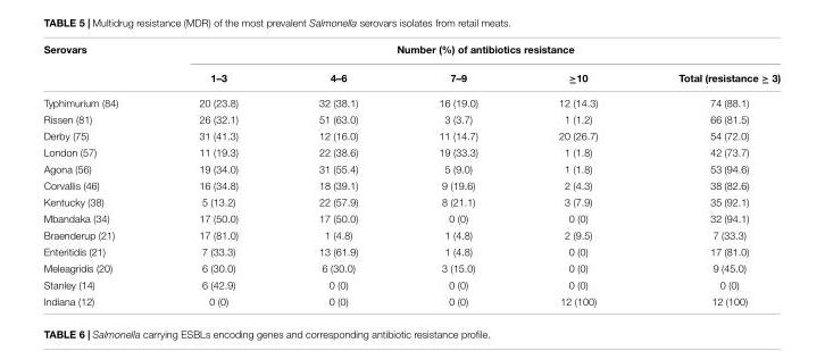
<table><thead><tr><td rowspan="2">Serovars</td><td colspan="5">Number (%) of antibiotics resistance</td></tr><tr><td>1–3</td><td>4–6</td><td>7–9</td><td>≥10</td><td>Total (resistance ≥ 3)</td></tr></thead><tbody><tr><td>Typhimurium (84)</td><td>20 (23.8)</td><td>32 (38.1)</td><td>16 (19.0)</td><td>12 (14.3)</td><td>74 (88.1)</td></tr><tr><td>Rissen (81)</td><td>26 (32.1)</td><td>51 (63.0)</td><td>3 (3.7)</td><td>1 (1.2)</td><td>66 (81.5)</td></tr><tr><td>Derby (75)</td><td>31 (41.3)</td><td>12 (16.0)</td><td>11 (14.7)</td><td>20 (26.7)</td><td>54 (72.0)</td></tr><tr><td>London (57)</td><td>11 (19.3)</td><td>22 (38.6)</td><td>19 (33.3)</td><td>1 (1.8)</td><td>42 (73.7)</td></tr><tr><td>Agona (56)</td><td>19 (34.0)</td><td>31 (55.4)</td><td>5 (9.0)</td><td>1 (1.8)</td><td>53 (94.6)</td></tr><tr><td>Corvallis (46)</td><td>16 (34.8)</td><td>18 (39.1)</td><td>9 (19.6)</td><td>2 (4.3)</td><td>38 (82.6)</td></tr><tr><td>Kentucky (38)</td><td>5 (13.2)</td><td>22 (57.9)</td><td>8 (21.1)</td><td>3 (7.9)</td><td>35 (92.1)</td></tr><tr><td>Mbandaka (34)</td><td>17 (50.0)</td><td>17 (50.0)</td><td>0 (0)</td><td>0 (0)</td><td>32 (94.1)</td></tr><tr><td>Braenderup (21)</td><td>17 (81.0)</td><td>1 (4.8)</td><td>1 (4.8)</td><td>2 (9.5)</td><td>7 (33.3)</td></tr><tr><td>Enteritidis (21)</td><td>7 (33.3)</td><td>13 (61.9)</td><td>1 (4.8)</td><td>0 (0)</td><td>17 (81.0)</td></tr><tr><td>Meleagridis (20)</td><td>6 (30.0)</td><td>6 (30.0)</td><td>3 (15.0)</td><td>0 (0)</td><td>9 (45.0)</td></tr><tr><td>Stanley (14)</td><td>6 (42.9)</td><td>0 (0)</td><td>0 (0)</td><td>0 (0)</td><td>0 (0)</td></tr><tr><td>Indiana (12)</td><td>0 (0)</td><td>0 (0)</td><td>0 (0)</td><td>12 (100)</td><td>12 (100)</td></tr></tbody></table>